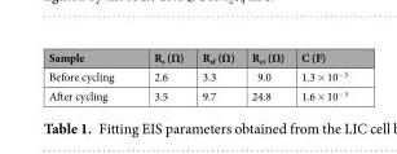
<table><thead><tr><td>Sample</td><td>R<sub>s</sub> (Ω)</td><td>R<sub>sf</sub> (Ω)</td><td>R<sub>ct</sub> (Ω)</td><td>C (F)</td></tr></thead><tbody><tr><td>Before cycling</td><td>2.6</td><td>3.3</td><td>9.0</td><td>1.3 × 10<sup>−3</sup></td></tr><tr><td>After cycling</td><td>3.5</td><td>9.7</td><td>24.8</td><td>1.6 × 10<sup>−3</sup></td></tr></tbody></table>